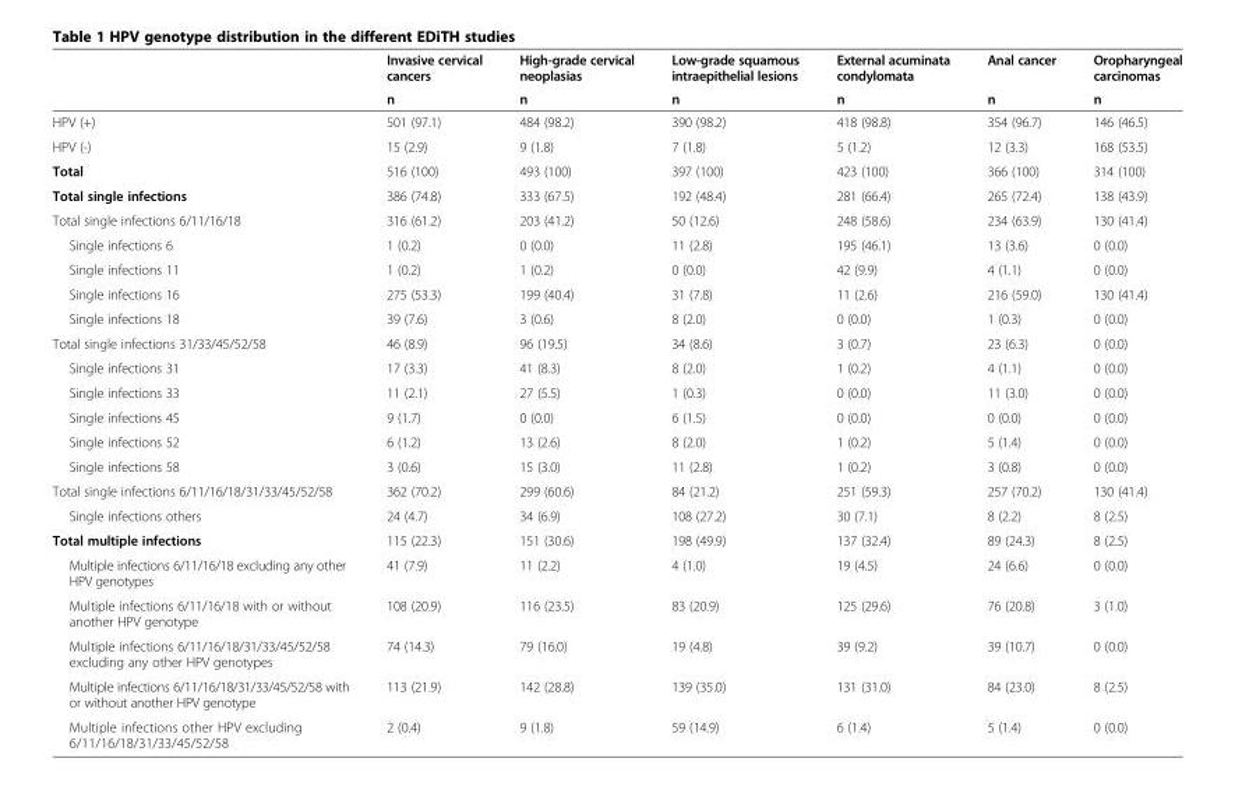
<table><thead><tr><td rowspan="2"></td><td rowspan="2">Invasive cervical cancers n</td><td rowspan="2">High-grade cervical neoplasias n</td><td rowspan="2">Low-grade squamous intraepithelial lesions n</td><td rowspan="2">External acuminata condylomata n</td><td rowspan="2">Anal cancer n</td><td rowspan="2">Oropharyngeal carcinomas n</td></tr><tr></tr></thead><tbody><tr><td>HPV (+)</td><td>501 (97.1)</td><td>484 (98.2)</td><td>390 (98.2)</td><td>418 (98.8)</td><td>354 (96.7)</td><td>146 (46.5)</td></tr><tr><td>HPV (-)</td><td>15 (2.9)</td><td>9 (1.8)</td><td>7 (1.8)</td><td>5 (1.2)</td><td>12 (3.3)</td><td>168 (53.5)</td></tr><tr><td>Total</td><td>516 (100)</td><td>493 (100)</td><td>397 (100)</td><td>423 (100)</td><td>366 (100)</td><td>314 (100)</td></tr><tr><td>Total single infections</td><td>386 (74.8)</td><td>333 (67.5)</td><td>192 (48.4)</td><td>281 (66.4)</td><td>265 (72.4)</td><td>138 (43.9)</td></tr><tr><td>Total single infections 6/11/16/18</td><td>316 (61.2)</td><td>203 (41.2)</td><td>50 (12.6)</td><td>248 (58.6)</td><td>234 (63.9)</td><td>130 (41.4)</td></tr><tr><td>Single infections 6</td><td>1 (0.2)</td><td>0 (0.0)</td><td>11 (2.8)</td><td>195 (46.1)</td><td>13 (3.6)</td><td>0 (0.0)</td></tr><tr><td>Single infections 11</td><td>1 (0.2)</td><td>1 (0.2)</td><td>0 (0.0)</td><td>42 (9.9)</td><td>4 (1.1)</td><td>0 (0.0)</td></tr><tr><td>Single infections 16</td><td>275 (53.3)</td><td>199 (40.4)</td><td>31 (7.8)</td><td>11 (2.6)</td><td>216 (59.0)</td><td>130 (41.4)</td></tr><tr><td>Single infections 18</td><td>39 (7.6)</td><td>3 (0.6)</td><td>8 (2.0)</td><td>0 (0.0)</td><td>1 (0.3)</td><td>0 (0.0)</td></tr><tr><td>Total single infections 31/33/45/52/58</td><td>46 (8.9)</td><td>96 (19.5)</td><td>34 (8.6)</td><td>3 (0.7)</td><td>23 (6.3)</td><td>0 (0.0)</td></tr><tr><td>Single infections 31</td><td>17 (3.3)</td><td>41 (8.3)</td><td>8 (2.0)</td><td>1 (0.2)</td><td>4 (1.1)</td><td>0 (0.0)</td></tr><tr><td>Single infections 33</td><td>11 (2.1)</td><td>27 (5.5)</td><td>1 (0.3)</td><td>0 (0.0)</td><td>11 (3.0)</td><td>0 (0.0)</td></tr><tr><td>Single infections 45</td><td>9 (1.7)</td><td>0 (0.0)</td><td>6 (1.5)</td><td>0 (0.0)</td><td>0 (0.0)</td><td>0 (0.0)</td></tr><tr><td>Single infections 52</td><td>6 (1.2)</td><td>13 (2.6)</td><td>8 (2.0)</td><td>1 (0.2)</td><td>5 (1.4)</td><td>0 (0.0)</td></tr><tr><td>Single infections 58</td><td>3 (0.6)</td><td>15 (3.0)</td><td>11 (2.8)</td><td>1 (0.2)</td><td>3 (0.8)</td><td>0 (0.0)</td></tr><tr><td>Total single infections 6/11/16/18/31/33/45/52/58</td><td>362 (70.2)</td><td>299 (60.6)</td><td>84 (21.2)</td><td>251 (59.3)</td><td>257 (70.2)</td><td>130 (41.4)</td></tr><tr><td>Single infections others</td><td>24 (4.7)</td><td>34 (6.9)</td><td>108 (27.2)</td><td>30 (7.1)</td><td>8 (2.2)</td><td>8 (2.5)</td></tr><tr><td>Total multiple infections</td><td>115 (22.3)</td><td>151 (30.6)</td><td>198 (49.9)</td><td>137 (32.4)</td><td>89 (24.3)</td><td>8 (2.5)</td></tr><tr><td>Multiple infections 6/11/16/18 excluding any other HPV genotypes</td><td>41 (7.9)</td><td>11 (2.2)</td><td>4 (1.0)</td><td>19 (4.5)</td><td>24 (6.6)</td><td>0 (0.0)</td></tr><tr><td>Multiple infections 6/11/16/18 with or without another HPV genotype</td><td>108 (20.9)</td><td>116 (23.5)</td><td>83 (20.9)</td><td>125 (29.6)</td><td>76 (20.8)</td><td>3 (1.0)</td></tr><tr><td>Multiple infections 6/11/16/18/31/33/45/52/58 excluding any other HPV genotypes</td><td>74 (14.3)</td><td>79 (16.0)</td><td>19 (4.8)</td><td>39 (9.2)</td><td>39 (10.7)</td><td>0 (0.0)</td></tr><tr><td>Multiple infections 6/11/16/18/31/33/45/52/58 with or without another HPV genotype</td><td>113 (21.9)</td><td>142 (28.8)</td><td>139 (35.0)</td><td>131 (31.0)</td><td>84 (23.0)</td><td>8 (2.5)</td></tr><tr><td>Multiple infections other HPV excluding 6/11/16/18/31/33/45/52/58</td><td>2 (0.4)</td><td>9 (1.8)</td><td>59 (14.9)</td><td>6 (1.4)</td><td>5 (1.4)</td><td>0 (0.0)</td></tr></tbody></table>